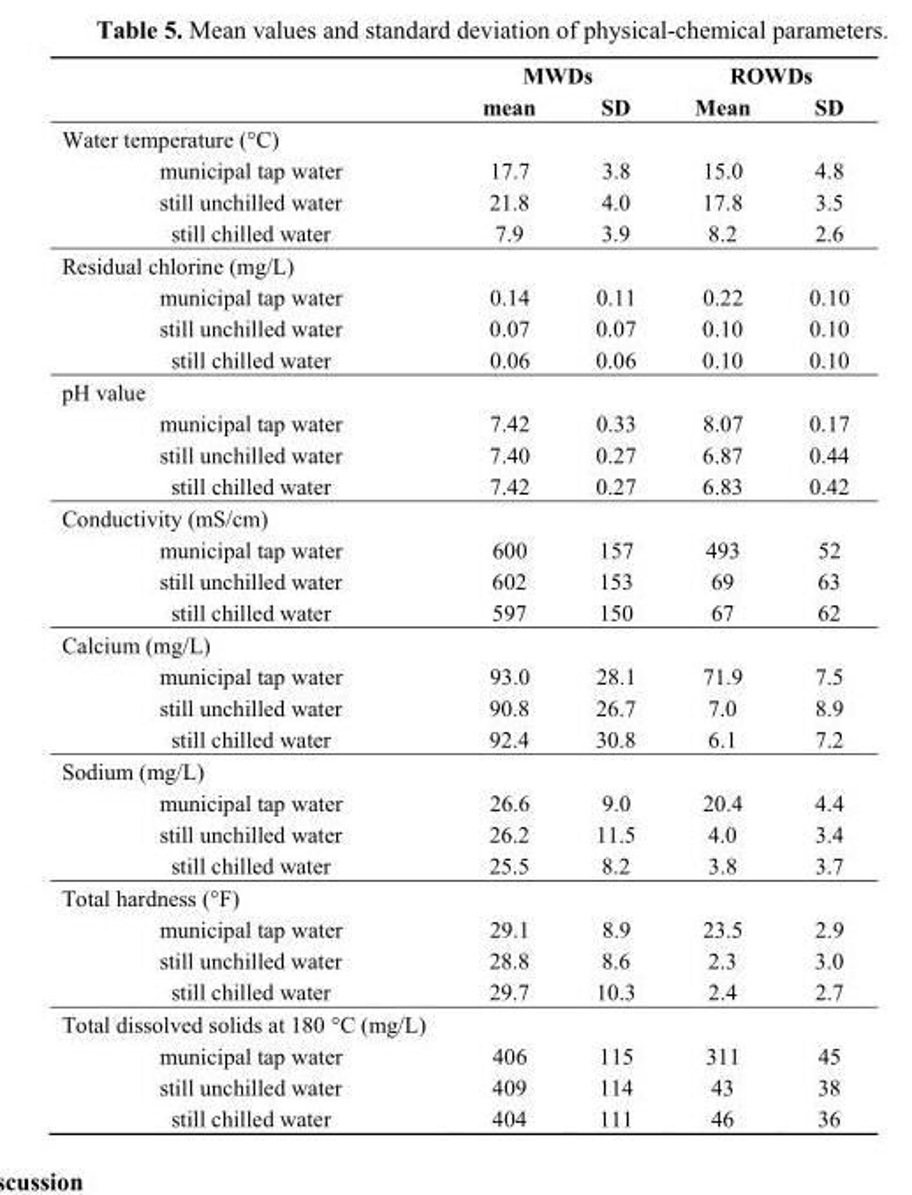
<table><thead><tr><td rowspan="2"></td><td colspan="2">MWDs</td><td colspan="2">ROWDs</td></tr><tr><td>mean</td><td>SD</td><td>Mean</td><td>SD</td></tr></thead><tbody><tr><td colspan="5">Water temperature (°C)</td></tr><tr><td>municipal tap water</td><td>17.7</td><td>3.8</td><td>15.0</td><td>4.8</td></tr><tr><td>still unchilled water</td><td>21.8</td><td>4.0</td><td>17.8</td><td>3.5</td></tr><tr><td>still chilled water</td><td>7.9</td><td>3.9</td><td>8.2</td><td>2.6</td></tr><tr><td colspan="5">Residual chlorine (mg/L)</td></tr><tr><td>municipal tap water</td><td>0.14</td><td>0.11</td><td>0.22</td><td>0.10</td></tr><tr><td>still unchilled water</td><td>0.07</td><td>0.07</td><td>0.10</td><td>0.10</td></tr><tr><td>still chilled water</td><td>0.06</td><td>0.06</td><td>0.10</td><td>0.10</td></tr><tr><td colspan="5">pH value</td></tr><tr><td>municipal tap water</td><td>7.42</td><td>0.33</td><td>8.07</td><td>0.17</td></tr><tr><td>still unchilled water</td><td>7.40</td><td>0.27</td><td>6.87</td><td>0.44</td></tr><tr><td>still chilled water</td><td>7.42</td><td>0.27</td><td>6.83</td><td>0.42</td></tr><tr><td colspan="5">Conductivity (mS/cm)</td></tr><tr><td>municipal tap water</td><td>600</td><td>157</td><td>493</td><td>52</td></tr><tr><td>still unchilled water</td><td>602</td><td>153</td><td>69</td><td>63</td></tr><tr><td>still chilled water</td><td>597</td><td>150</td><td>67</td><td>62</td></tr><tr><td colspan="5">Calcium (mg/L)</td></tr><tr><td>municipal tap water</td><td>93.0</td><td>28.1</td><td>71.9</td><td>7.5</td></tr><tr><td>still unchilled water</td><td>90.8</td><td>26.7</td><td>7.0</td><td>8.9</td></tr><tr><td>still chilled water</td><td>92.4</td><td>30.8</td><td>6.1</td><td>7.2</td></tr><tr><td colspan="5">Sodium (mg/L)</td></tr><tr><td>municipal tap water</td><td>26.6</td><td>9.0</td><td>20.4</td><td>4.4</td></tr><tr><td>still unchilled water</td><td>26.2</td><td>11.5</td><td>4.0</td><td>3.4</td></tr><tr><td>still chilled water</td><td>25.5</td><td>8.2</td><td>3.8</td><td>3.7</td></tr><tr><td colspan="5">Total hardness (°F)</td></tr><tr><td>municipal tap water</td><td>29.1</td><td>8.9</td><td>23.5</td><td>2.9</td></tr><tr><td>still unchilled water</td><td>28.8</td><td>8.6</td><td>2.3</td><td>3.0</td></tr><tr><td>still chilled water</td><td>29.7</td><td>10.3</td><td>2.4</td><td>2.7</td></tr><tr><td colspan="5">Total dissolved solids at 180 °C (mg/L)</td></tr><tr><td>municipal tap water</td><td>406</td><td>115</td><td>311</td><td>45</td></tr><tr><td>still unchilled water</td><td>409</td><td>114</td><td>43</td><td>38</td></tr><tr><td>still chilled water</td><td>404</td><td>111</td><td>46</td><td>36</td></tr></tbody></table>